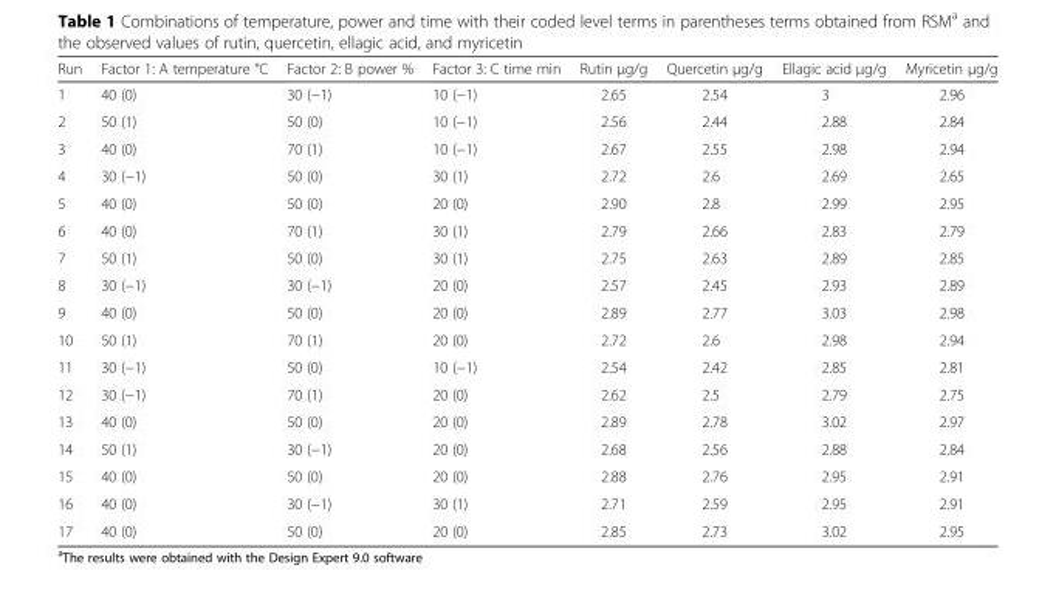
<table><thead><tr><td>Run</td><td>Factor 1: A temperature °C</td><td>Factor 2: B power %</td><td>Factor 3: C time min</td><td>Rutin μg/g</td><td>Quercetin μg/g</td><td>Ellagic acid μg/g</td><td>Myricetin μg/g</td></tr></thead><tbody><tr><td>1</td><td>40 (0)</td><td>30 (−1)</td><td>10 (−1)</td><td>2.65</td><td>2.54</td><td>3</td><td>2.96</td></tr><tr><td>2</td><td>50 (1)</td><td>50 (0)</td><td>10 (−1)</td><td>2.56</td><td>2.44</td><td>2.88</td><td>2.84</td></tr><tr><td>3</td><td>40 (0)</td><td>70 (1)</td><td>10 (−1)</td><td>2.67</td><td>2.55</td><td>2.98</td><td>2.94</td></tr><tr><td>4</td><td>30 (−1)</td><td>50 (0)</td><td>30 (1)</td><td>2.72</td><td>2.6</td><td>2.69</td><td>2.65</td></tr><tr><td>5</td><td>40 (0)</td><td>50 (0)</td><td>20 (0)</td><td>2.90</td><td>2.8</td><td>2.99</td><td>2.95</td></tr><tr><td>6</td><td>40 (0)</td><td>70 (1)</td><td>30 (1)</td><td>2.79</td><td>2.66</td><td>2.83</td><td>2.79</td></tr><tr><td>7</td><td>50 (1)</td><td>50 (0)</td><td>30 (1)</td><td>2.75</td><td>2.63</td><td>2.89</td><td>2.85</td></tr><tr><td>8</td><td>30 (−1)</td><td>30 (−1)</td><td>20 (0)</td><td>2.57</td><td>2.45</td><td>2.93</td><td>2.89</td></tr><tr><td>9</td><td>40 (0)</td><td>50 (0)</td><td>20 (0)</td><td>2.89</td><td>2.77</td><td>3.03</td><td>2.98</td></tr><tr><td>10</td><td>50 (1)</td><td>70 (1)</td><td>20 (0)</td><td>2.72</td><td>2.6</td><td>2.98</td><td>2.94</td></tr><tr><td>11</td><td>30 (−1)</td><td>50 (0)</td><td>10 (−1)</td><td>2.54</td><td>2.42</td><td>2.85</td><td>2.81</td></tr><tr><td>12</td><td>30 (−1)</td><td>70 (1)</td><td>20 (0)</td><td>2.62</td><td>2.5</td><td>2.79</td><td>2.75</td></tr><tr><td>13</td><td>40 (0)</td><td>50 (0)</td><td>20 (0)</td><td>2.89</td><td>2.78</td><td>3.02</td><td>2.97</td></tr><tr><td>14</td><td>50 (1)</td><td>30 (−1)</td><td>20 (0)</td><td>2.68</td><td>2.56</td><td>2.88</td><td>2.84</td></tr><tr><td>15</td><td>40 (0)</td><td>50 (0)</td><td>20 (0)</td><td>2.88</td><td>2.76</td><td>2.95</td><td>2.91</td></tr><tr><td>16</td><td>40 (0)</td><td>30 (−1)</td><td>30 (1)</td><td>2.71</td><td>2.59</td><td>2.95</td><td>2.91</td></tr><tr><td>17</td><td>40 (0)</td><td>50 (0)</td><td>20 (0)</td><td>2.85</td><td>2.73</td><td>3.02</td><td>2.95</td></tr></tbody></table>